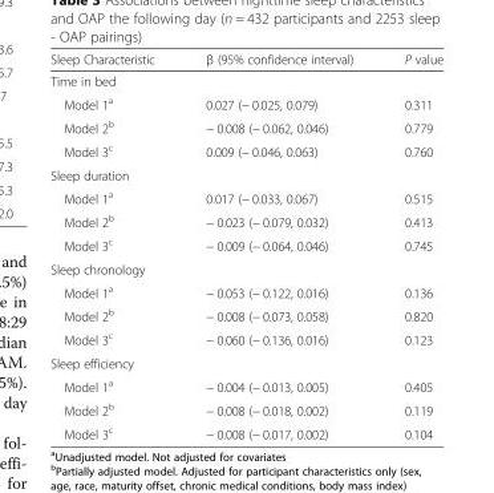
<table><thead><tr><td>Sleep Characteristic</td><td>β (95% confidence interval)</td><td>P value</td></tr></thead><tbody><tr><td colspan="3">Time in bed</td></tr><tr><td>Model 1<sup>a</sup></td><td>0.027 (− 0.025, 0.079)</td><td>0.311</td></tr><tr><td>Model 2<sup>b</sup></td><td>− 0.008 (− 0.062, 0.046)</td><td>0.779</td></tr><tr><td>Model 3<sup>c</sup></td><td>0.009 (− 0.046, 0.063)</td><td>0.760</td></tr><tr><td colspan="3">Sleep duration</td></tr><tr><td>Model 1<sup>a</sup></td><td>0.017 (− 0.033, 0.067)</td><td>0.515</td></tr><tr><td>Model 2<sup>b</sup></td><td>− 0.023 (− 0.079, 0.032)</td><td>0.413</td></tr><tr><td>Model 3<sup>c</sup></td><td>− 0.009 (− 0.064, 0.046)</td><td>0.745</td></tr><tr><td colspan="3">Sleep chronology</td></tr><tr><td>Model 1<sup>a</sup></td><td>− 0.053 (− 0.122, 0.016)</td><td>0.136</td></tr><tr><td>Model 2<sup>b</sup></td><td>− 0.008 (− 0.073, 0.058)</td><td>0.820</td></tr><tr><td>Model 3<sup>c</sup></td><td>− 0.060 (− 0.136, 0.016)</td><td>0.123</td></tr><tr><td colspan="3">Sleep efficiency</td></tr><tr><td>Model 1<sup>a</sup></td><td>− 0.004 (− 0.013, 0.005)</td><td>0.405</td></tr><tr><td>Model 2<sup>b</sup></td><td>− 0.008 (− 0.018, 0.002)</td><td>0.119</td></tr><tr><td>Model 3<sup>c</sup></td><td>− 0.008 (− 0.017, 0.002)</td><td>0.104</td></tr></tbody></table>